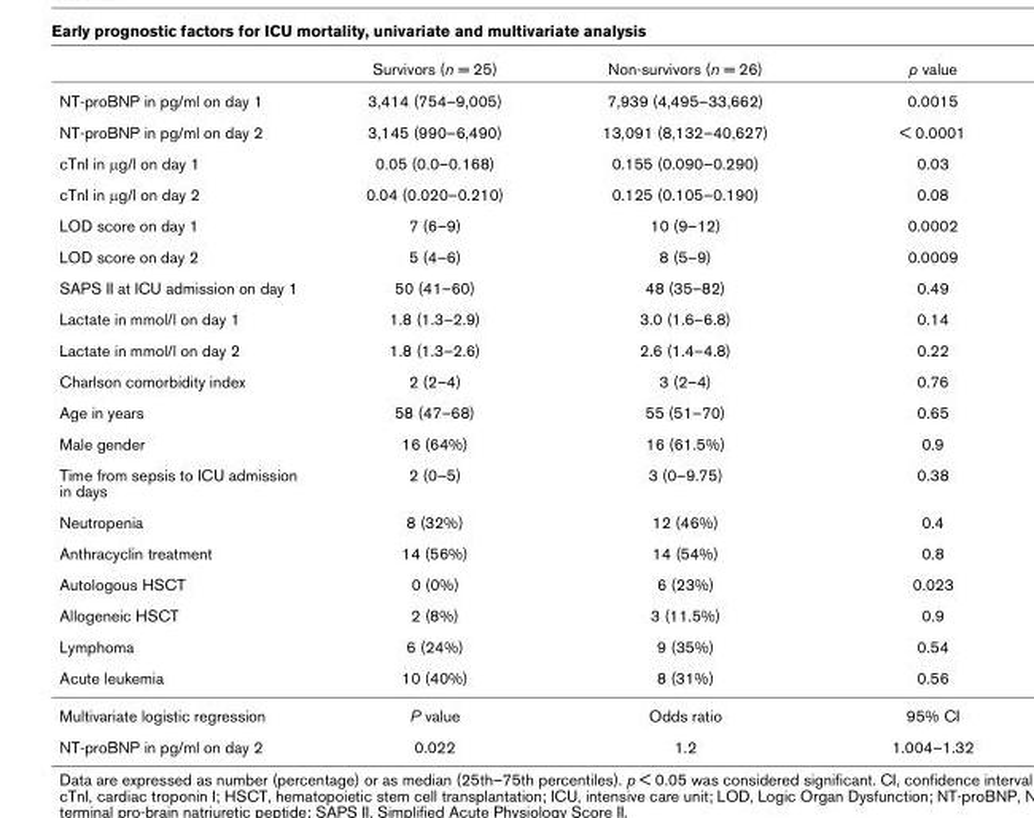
<table><thead><tr><td></td><td>Survivors (n = 25)</td><td>Non-survivors (n = 26)</td><td>p value</td></tr></thead><tbody><tr><td>NT-proBNP in pg/ml on day 1</td><td>3,414 (754–9,005)</td><td>7,939 (4,495–33,662)</td><td>0.0015</td></tr><tr><td>NT-proBNP in pg/ml on day 2</td><td>3,145 (990–6,490)</td><td>13,091 (8,132–40,627)</td><td>&lt; 0.0001</td></tr><tr><td>cTnI in μg/l on day 1</td><td>0.05 (0.0–0.168)</td><td>0.155 (0.090–0.290)</td><td>0.03</td></tr><tr><td>cTnI in μg/l on day 2</td><td>0.04 (0.020–0.210)</td><td>0.125 (0.105–0.190)</td><td>0.08</td></tr><tr><td>LOD score on day 1</td><td>7 (6–9)</td><td>10 (9–12)</td><td>0.0002</td></tr><tr><td>LOD score on day 2</td><td>5 (4–6)</td><td>8 (5–9)</td><td>0.0009</td></tr><tr><td>SAPS II at ICU admission on day 1</td><td>50 (41–60)</td><td>48 (35–82)</td><td>0.49</td></tr><tr><td>Lactate in mmol/l on day 1</td><td>1.8 (1.3–2.9)</td><td>3.0 (1.6–6.8)</td><td>0.14</td></tr><tr><td>Lactate in mmol/l on day 2</td><td>1.8 (1.3–2.6)</td><td>2.6 (1.4–4.8)</td><td>0.22</td></tr><tr><td>Charlson comorbidity index</td><td>2 (2–4)</td><td>3 (2–4)</td><td>0.76</td></tr><tr><td>Age in years</td><td>58 (47–68)</td><td>55 (51–70)</td><td>0.65</td></tr><tr><td>Male gender</td><td>16 (64%)</td><td>16 (61.5%)</td><td>0.9</td></tr><tr><td>Time from sepsis to ICU admission in days</td><td>2 (0–5)</td><td>3 (0–9.75)</td><td>0.38</td></tr><tr><td>Neutropenia</td><td>8 (32%)</td><td>12 (46%)</td><td>0.4</td></tr><tr><td>Anthracyclin treatment</td><td>14 (56%)</td><td>14 (54%)</td><td>0.8</td></tr><tr><td>Autologous HSCT</td><td>0 (0%)</td><td>6 (23%)</td><td>0.023</td></tr><tr><td>Allogeneic HSCT</td><td>2 (8%)</td><td>3 (11.5%)</td><td>0.9</td></tr><tr><td>Lymphoma</td><td>6 (24%)</td><td>9 (35%)</td><td>0.54</td></tr><tr><td>Acute leukemia</td><td>10 (40%)</td><td>8 (31%)</td><td>0.56</td></tr><tr><td>Multivariate logistic regression</td><td>P value</td><td>Odds ratio</td><td>95% CI</td></tr><tr><td>NT-proBNP in pg/ml on day 2</td><td>0.022</td><td>1.2</td><td>1.004–1.32</td></tr></tbody></table>